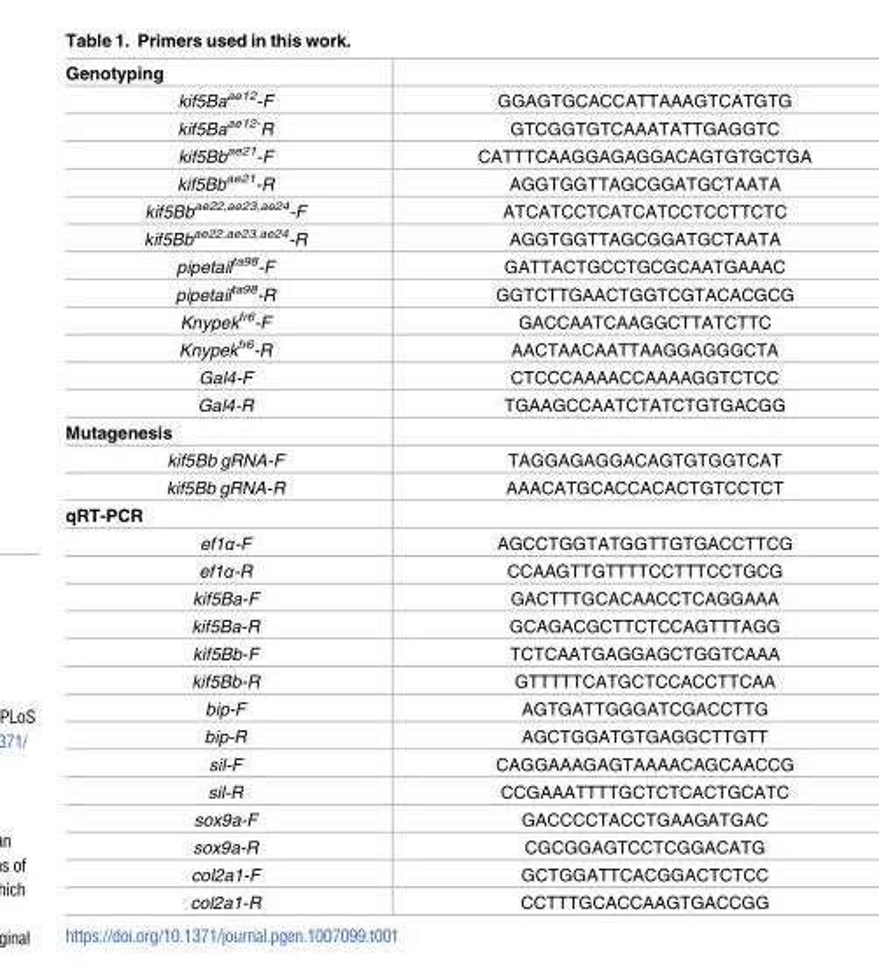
<table><tbody><tr><td colspan="2">Genotyping</td></tr><tr><td>kif5Ba<sup>ae12</sup>-F</td><td>GGAGTGCACCATTAAAGTCATGTG</td></tr><tr><td>kif5Ba<sup>ae12-</sup>R</td><td>GTCGGTGTCAAATATTGAGGTC</td></tr><tr><td>kif5Bb<sup>ae21</sup>-F</td><td>CATTTCAAGGAGAGGACAGTGTGCTGA</td></tr><tr><td>kif5Bb<sup>ae21</sup>-R</td><td>AGGTGGTTAGCGGATGCTAATA</td></tr><tr><td>kif5Bb<sup>ae22,ae23,ae24</sup>-F</td><td>ATCATCCTCATCATCCTCCTTCTC</td></tr><tr><td>kif5Bb<sup>ae22,ae23,ae24</sup>-R</td><td>AGGTGGTTAGCGGATGCTAATA</td></tr><tr><td>pipetail<sup>ta98</sup>-F</td><td>GATTACTGCCTGCGCAATGAAAC</td></tr><tr><td>pipetail<sup>ta98</sup>-R</td><td>GGTCTTGAACTGGTCGTACACGCG</td></tr><tr><td>Knypek<sup>fr6</sup>-F</td><td>GACCAATCAAGGCTTATCTTC</td></tr><tr><td>Knypek<sup>fr6</sup>-R</td><td>AACTAACAATTAAGGAGGGCTA</td></tr><tr><td>Gal4-F</td><td>CTCCCAAAACCAAAAGGTCTCC</td></tr><tr><td>Gal4-R</td><td>TGAAGCCAATCTATCTGTGACGG</td></tr><tr><td colspan="2">Mutagenesis</td></tr><tr><td>kif5Bb gRNA-F</td><td>TAGGAGAGGACAGTGTGGTCAT</td></tr><tr><td>kif5Bb gRNA-R</td><td>AAACATGCACCACACTGTCCTCT</td></tr><tr><td colspan="2">qRT-PCR</td></tr><tr><td>ef1α-F</td><td>AGCCTGGTATGGTTGTGACCTTCG</td></tr><tr><td>ef1α-R</td><td>CCAAGTTGTTTTCCTTTCCTGCG</td></tr><tr><td>kif5Ba-F</td><td>GACTTTGCACAACCTCAGGAAA</td></tr><tr><td>kif5Ba-R</td><td>GCAGACGCTTCTCCAGTTTAGG</td></tr><tr><td>kif5Bb-F</td><td>TCTCAATGAGGAGCTGGTCAAA</td></tr><tr><td>kif5Bb-R</td><td>GTTTTTCATGCTCCACCTTCAA</td></tr><tr><td>bip-F</td><td>AGTGATTGGGATCGACCTTG</td></tr><tr><td>bip-R</td><td>AGCTGGATGTGAGGCTTGTT</td></tr><tr><td>sil-F</td><td>CAGGAAAGAGTAAAACAGCAACCG</td></tr><tr><td>sil-R</td><td>CCGAAATTTTGCTCTCACTGCATC</td></tr><tr><td>sox9a-F</td><td>GACCCCTACCTGAAGATGAC</td></tr><tr><td>sox9a-R</td><td>CGCGGAGTCCTCGGACATG</td></tr><tr><td>col2a1-F</td><td>GCTGGATTCACGGACTCTCC</td></tr><tr><td>col2a1-R</td><td>CCTTTGCACCAAGTGACCGG</td></tr></tbody></table>